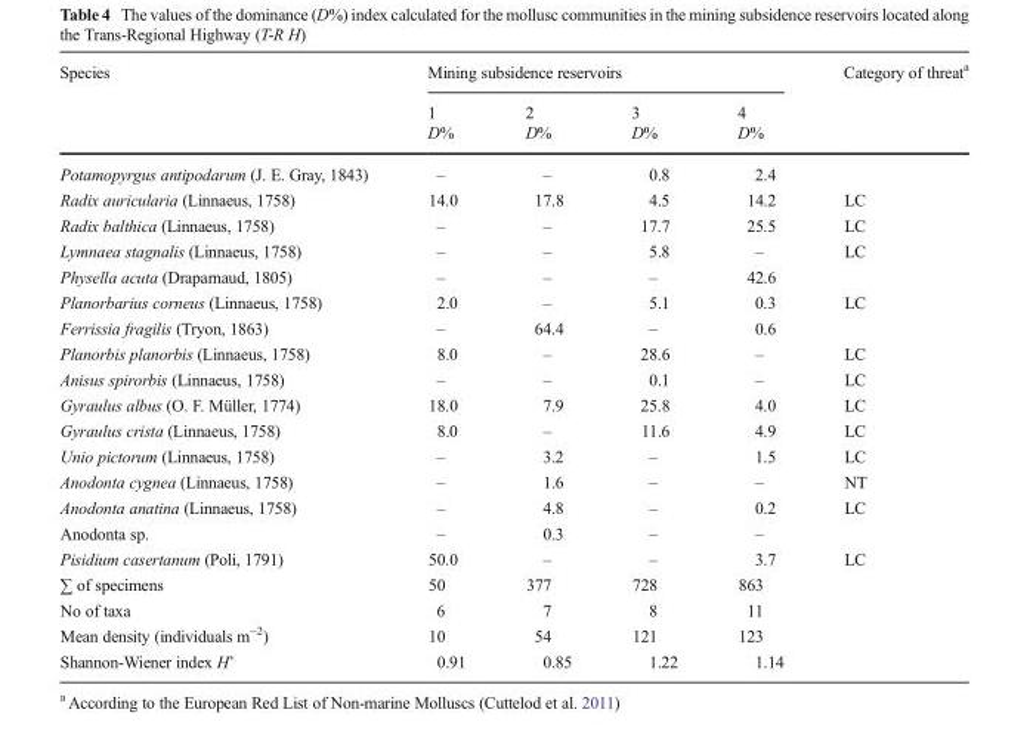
<table><thead><tr><td rowspan="3">Species</td><td colspan="4">Mining subsidence reservoirs</td><td rowspan="3">Category of threat<sup>a</sup></td></tr><tr><td rowspan="2">1 D%</td><td rowspan="2">2 D%</td><td rowspan="2">3 D%</td><td rowspan="2">4 D%</td></tr><tr></tr></thead><tbody><tr><td>Potamopyrgus antipodarum (J. E. Gray, 1843)</td><td>–</td><td>–</td><td>0.8</td><td>2.4</td><td></td></tr><tr><td>Radix auricularia (Linnaeus, 1758)</td><td>14.0</td><td>17.8</td><td>4.5</td><td>14.2</td><td>LC</td></tr><tr><td>Radix balthica (Linnaeus, 1758)</td><td>–</td><td>–</td><td>17.7</td><td>25.5</td><td>LC</td></tr><tr><td>Lymnaea stagnalis (Linnaeus, 1758)</td><td>–</td><td>–</td><td>5.8</td><td>–</td><td>LC</td></tr><tr><td>Physella acuta (Draparnaud, 1805)</td><td>–</td><td>–</td><td>–</td><td>42.6</td><td></td></tr><tr><td>Planorbarius corneus (Linnaeus, 1758)</td><td>2.0</td><td>–</td><td>5.1</td><td>0.3</td><td>LC</td></tr><tr><td>Ferrissia fragilis (Tryon, 1863)</td><td>–</td><td>64.4</td><td>–</td><td>0.6</td><td></td></tr><tr><td>Planorbis planorbis (Linnaeus, 1758)</td><td>8.0</td><td>–</td><td>28.6</td><td>–</td><td>LC</td></tr><tr><td>Anisus spirorbis (Linnaeus, 1758)</td><td>–</td><td>–</td><td>0.1</td><td>–</td><td>LC</td></tr><tr><td>Gyraulus albus (O. F. Müller, 1774)</td><td>18.0</td><td>7.9</td><td>25.8</td><td>4.0</td><td>LC</td></tr><tr><td>Gyraulus crista (Linnaeus, 1758)</td><td>8.0</td><td>–</td><td>11.6</td><td>4.9</td><td>LC</td></tr><tr><td>Unio pictorum (Linnaeus, 1758)</td><td>–</td><td>3.2</td><td>–</td><td>1.5</td><td>LC</td></tr><tr><td>Anodonta cygnea (Linnaeus, 1758)</td><td>–</td><td>1.6</td><td>–</td><td>–</td><td>NT</td></tr><tr><td>Anodonta anatina (Linnaeus, 1758)</td><td>–</td><td>4.8</td><td>–</td><td>0.2</td><td>LC</td></tr><tr><td>Anodonta sp.</td><td>–</td><td>0.3</td><td>–</td><td>–</td><td></td></tr><tr><td>Pisidium casertanum (Poli, 1791)</td><td>50.0</td><td>–</td><td>–</td><td>3.7</td><td>LC</td></tr><tr><td>∑ of specimens</td><td>50</td><td>377</td><td>728</td><td>863</td><td></td></tr><tr><td>No of taxa</td><td>6</td><td>7</td><td>8</td><td>11</td><td></td></tr><tr><td>Mean density (individuals m<sup>−2</sup>)</td><td>10</td><td>54</td><td>121</td><td>123</td><td></td></tr><tr><td>Shannon-Wiener index H’</td><td>0.91</td><td>0.85</td><td>1.22</td><td>1.14</td><td></td></tr></tbody></table>